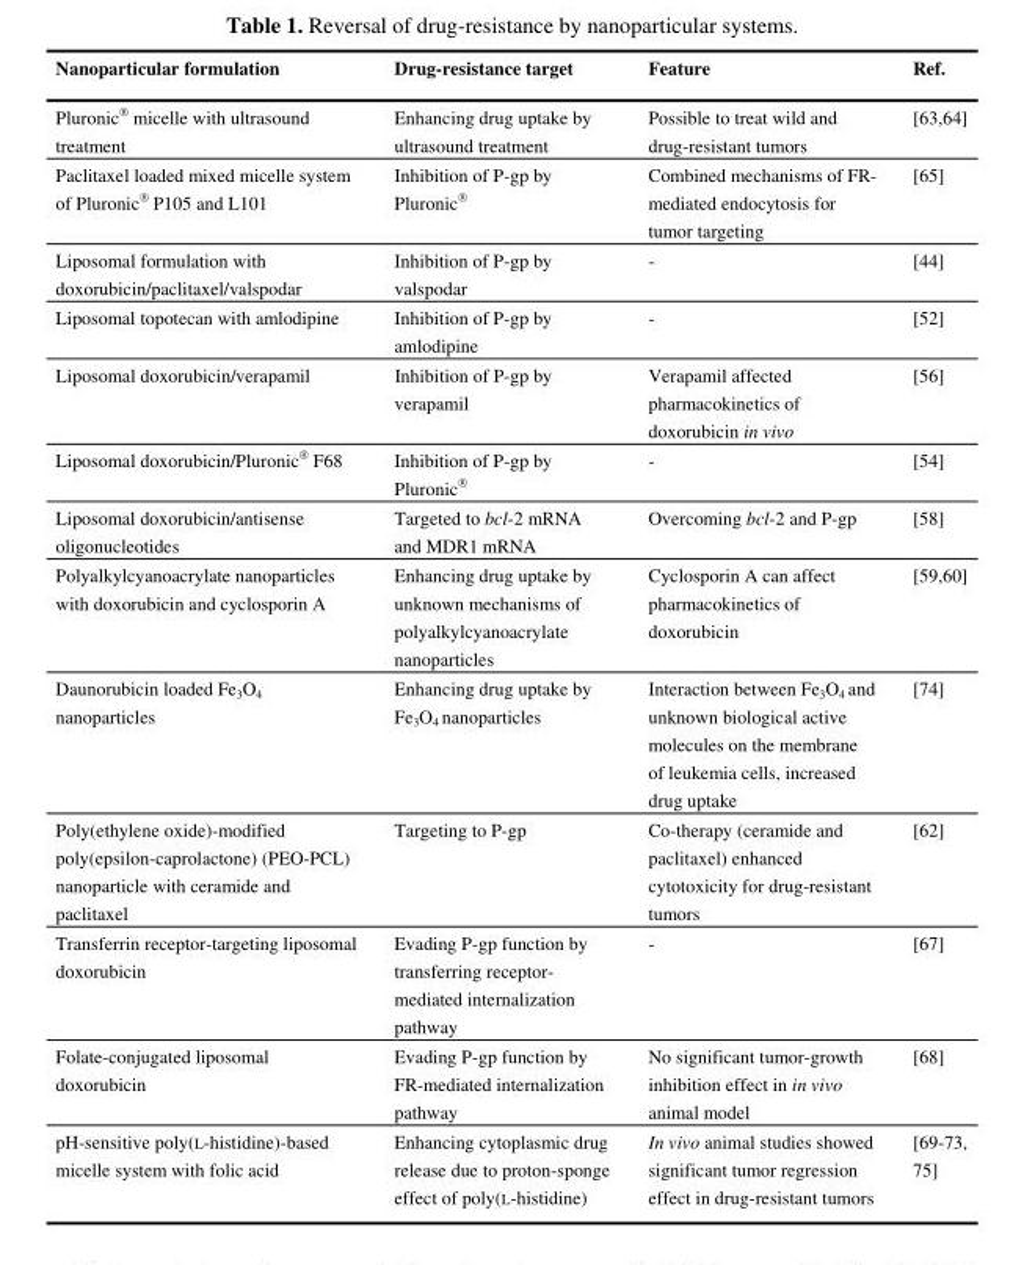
<table><thead><tr><td>Nanoparticular formulation</td><td>Drug-resistance target</td><td>Feature</td><td>Ref.</td></tr></thead><tbody><tr><td>Pluronic<sup>®</sup> micelle with ultrasound treatment</td><td>Enhancing drug uptake by ultrasound treatment</td><td>Possible to treat wild and drug-resistant tumors</td><td>[63,64]</td></tr><tr><td>Paclitaxel loaded mixed micelle system of Pluronic<sup>®</sup> P105 and L101</td><td>Inhibition of P-gp by Pluronic<sup>®</sup></td><td>Combined mechanisms of FR- mediated endocytosis for tumor targeting</td><td>[65]</td></tr><tr><td>Liposomal formulation with doxorubicin/paclitaxel/valspodar</td><td>Inhibition of P-gp by valspodar</td><td>-</td><td>[44]</td></tr><tr><td>Liposomal topotecan with amlodipine</td><td>Inhibition of P-gp by amlodipine</td><td>-</td><td>[52]</td></tr><tr><td>Liposomal doxorubicin/verapamil</td><td>Inhibition of P-gp by verapamil</td><td>Verapamil affected pharmacokinetics of doxorubicin in vivo</td><td>[56]</td></tr><tr><td>Liposomal doxorubicin/Pluronic<sup>®</sup> F68</td><td>Inhibition of P-gp by Pluronic<sup>®</sup></td><td>-</td><td>[54]</td></tr><tr><td>Liposomal doxorubicin/antisense oligonucleotides</td><td>Targeted to bcl-2 mRNA and MDR1 mRNA</td><td>Overcoming bcl-2 and P-gp</td><td>[58]</td></tr><tr><td>Polyalkylcyanoacrylate nanoparticles with doxorubicin and cyclosporin A</td><td>Enhancing drug uptake by unknown mechanisms of polyalkylcyanoacrylate nanoparticles</td><td>Cyclosporin A can affect pharmacokinetics of doxorubicin</td><td>[59,60]</td></tr><tr><td>Daunorubicin loaded Fe<sub>3</sub>O<sub>4</sub> nanoparticles</td><td>Enhancing drug uptake by Fe<sub>3</sub>O<sub>4</sub> nanoparticles</td><td>Interaction between Fe<sub>3</sub>O<sub>4</sub> and unknown biological active molecules on the membrane of leukemia cells, increased drug uptake</td><td>[74]</td></tr><tr><td>Poly(ethylene oxide)-modified poly(epsilon-caprolactone) (PEO-PCL) nanoparticle with ceramide and paclitaxel</td><td>Targeting to P-gp</td><td>Co-therapy (ceramide and paclitaxel) enhanced cytotoxicity for drug-resistant tumors</td><td>[62]</td></tr><tr><td>Transferrin receptor-targeting liposomal doxorubicin</td><td>Evading P-gp function by transferring receptor- mediated internalization pathway</td><td>-</td><td>[67]</td></tr><tr><td>Folate-conjugated liposomal doxorubicin</td><td>Evading P-gp function by FR-mediated internalization pathway</td><td>No significant tumor-growth inhibition effect in in vivo animal model</td><td>[68]</td></tr><tr><td>pH-sensitive poly(L-histidine)-based micelle system with folic acid</td><td>Enhancing cytoplasmic drug release due to proton-sponge effect of poly(L-histidine)</td><td>In vivo animal studies showed significant tumor regression effect in drug-resistant tumors</td><td>[69-73, 75]</td></tr></tbody></table>